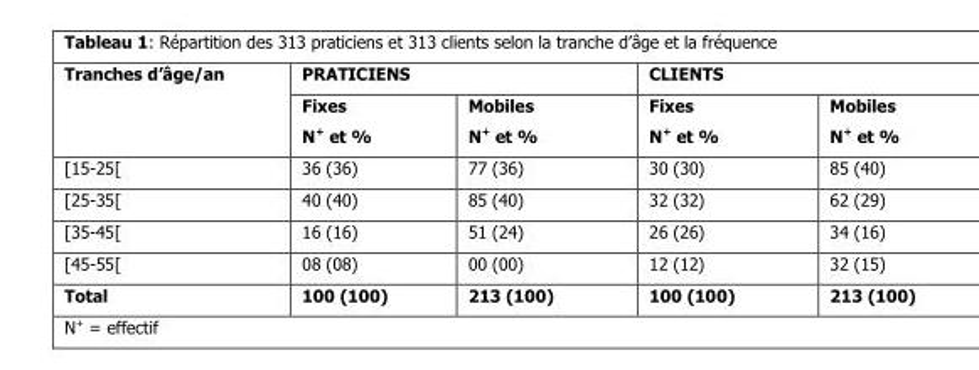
<table><thead><tr><td rowspan="2">Tranches d’âge/an</td><td colspan="2">PRATICIENS</td><td colspan="2">CLIENTS</td></tr><tr><td>Fixes N<sup>+</sup> et %</td><td>Mobiles N<sup>+</sup> et %</td><td>Fixes N<sup>+</sup> et %</td><td>Mobiles N<sup>+</sup> et %</td></tr></thead><tbody><tr><td>[15-25[</td><td>36 (36)</td><td>77 (36)</td><td>30 (30)</td><td>85 (40)</td></tr><tr><td>[25-35[</td><td>40 (40)</td><td>85 (40)</td><td>32 (32)</td><td>62 (29)</td></tr><tr><td>[35-45[</td><td>16 (16)</td><td>51 (24)</td><td>26 (26)</td><td>34 (16)</td></tr><tr><td>[45-55[</td><td>08 (08)</td><td>00 (00)</td><td>12 (12)</td><td>32 (15)</td></tr><tr><td>Total</td><td>100 (100)</td><td>213 (100)</td><td>100 (100)</td><td>213 (100)</td></tr></tbody></table>